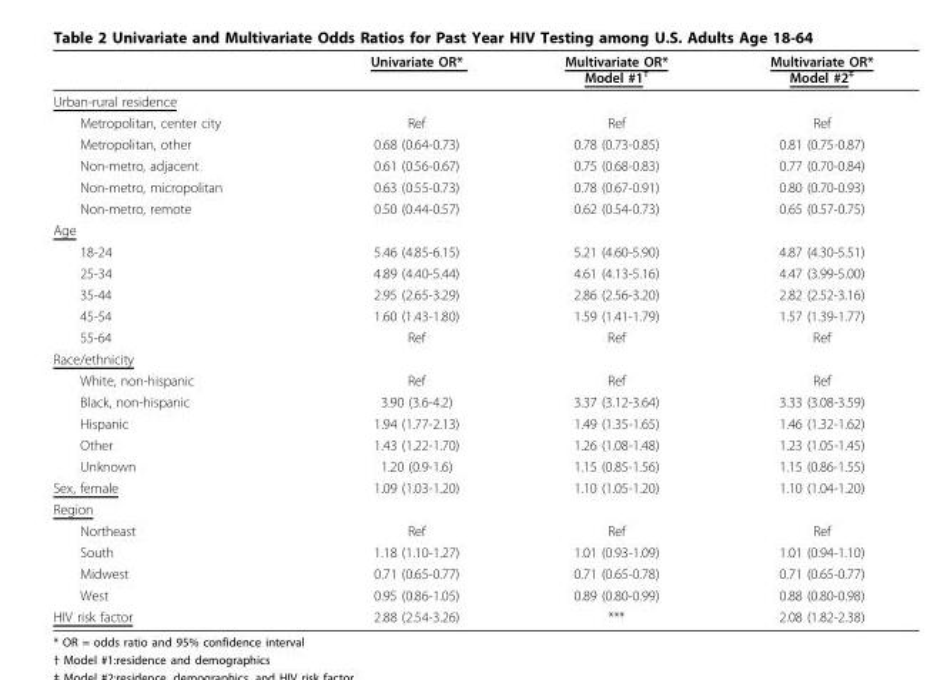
<table><thead><tr><td></td><td>Univariate OR*</td><td>Multivariate OR* Model #1<sup>†</sup></td><td>Multivariate OR* Model #2<sup>‡</sup></td></tr></thead><tbody><tr><td colspan="4">Urban-rural residence</td></tr><tr><td>Metropolitan, center city</td><td>Ref</td><td>Ref</td><td>Ref</td></tr><tr><td>Metropolitan, other</td><td>0.68 (0.64-0.73)</td><td>0.78 (0.73-0.85)</td><td>0.81 (0.75-0.87)</td></tr><tr><td>Non-metro, adjacent</td><td>0.61 (0.56-0.67)</td><td>0.75 (0.68-0.83)</td><td>0.77 (0.70-0.84)</td></tr><tr><td>Non-metro, micropolitan</td><td>0.63 (0.55-0.73)</td><td>0.78 (0.67-0.91)</td><td>0.80 (0.70-0.93)</td></tr><tr><td>Non-metro, remote</td><td>0.50 (0.44-0.57)</td><td>0.62 (0.54-0.73)</td><td>0.65 (0.57-0.75)</td></tr><tr><td colspan="4">Age</td></tr><tr><td>18-24</td><td>5.46 (4.85-6.15)</td><td>5.21 (4.60-5.90)</td><td>4.87 (4.30-5.51)</td></tr><tr><td>25-34</td><td>4.89 (4.40-5.44)</td><td>4.61 (4.13-5.16)</td><td>4.47 (3.99-5.00)</td></tr><tr><td>35-44</td><td>2.95 (2.65-3.29)</td><td>2.86 (2.56-3.20)</td><td>2.82 (2.52-3.16)</td></tr><tr><td>45-54</td><td>1.60 (1.43-1.80)</td><td>1.59 (1.41-1.79)</td><td>1.57 (1.39-1.77)</td></tr><tr><td>55-64</td><td>Ref</td><td>Ref</td><td>Ref</td></tr><tr><td colspan="4">Race/ethnicity</td></tr><tr><td>White, non-hispanic</td><td>Ref</td><td>Ref</td><td>Ref</td></tr><tr><td>Black, non-hispanic</td><td>3.90 (3.6-4.2)</td><td>3.37 (3.12-3.64)</td><td>3.33 (3.08-3.59)</td></tr><tr><td>Hispanic</td><td>1.94 (1.77-2.13)</td><td>1.49 (1.35-1.65)</td><td>1.46 (1.32-1.62)</td></tr><tr><td>Other</td><td>1.43 (1.22-1.70)</td><td>1.26 (1.08-1.48)</td><td>1.23 (1.05-1.45)</td></tr><tr><td>Unknown</td><td>1.20 (0.9-1.6)</td><td>1.15 (0.85-1.56)</td><td>1.15 (0.86-1.55)</td></tr><tr><td>Sex, female</td><td>1.09 (1.03-1.20)</td><td>1.10 (1.05-1.20)</td><td>1.10 (1.04-1.20)</td></tr><tr><td colspan="4">Region</td></tr><tr><td>Northeast</td><td>Ref</td><td>Ref</td><td>Ref</td></tr><tr><td>South</td><td>1.18 (1.10-1.27)</td><td>1.01 (0.93-1.09)</td><td>1.01 (0.94-1.10)</td></tr><tr><td>Midwest</td><td>0.71 (0.65-0.77)</td><td>0.71 (0.65-0.78)</td><td>0.71 (0.65-0.77)</td></tr><tr><td>West</td><td>0.95 (0.86-1.05)</td><td>0.89 (0.80-0.99)</td><td>0.88 (0.80-0.98)</td></tr><tr><td>HIV risk factor</td><td>2.88 (2.54-3.26)</td><td>***</td><td>2.08 (1.82-2.38)</td></tr></tbody></table>